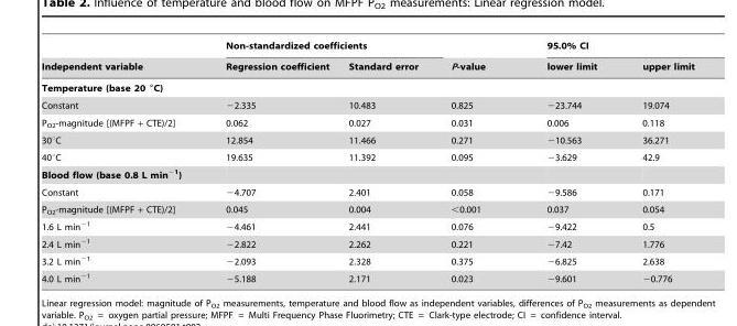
<table><thead><tr><td rowspan="2">Independent variable</td><td colspan="2">Non-standardized coefficients</td><td rowspan="2">P-value</td><td colspan="2">95.0% CI</td></tr><tr><td>Regression coefficient</td><td>Standard error</td><td>lower limit</td><td>upper limit</td></tr></thead><tbody><tr><td colspan="6">Temperature (base 20 °C)</td></tr><tr><td>Constant</td><td>−2.335</td><td>10.483</td><td>0.825</td><td>−23.744</td><td>19.074</td></tr><tr><td>P<sub>O2</sub>-magnitude [(MFPF + CTE)/2]</td><td>0.062</td><td>0.027</td><td>0.031</td><td>0.006</td><td>0.118</td></tr><tr><td>30°C</td><td>12.854</td><td>11.466</td><td>0.271</td><td>−10.563</td><td>36.271</td></tr><tr><td>40°C</td><td>19.635</td><td>11.392</td><td>0.095</td><td>−3.629</td><td>42.9</td></tr><tr><td colspan="6">Blood flow (base 0.8 L min<sup>−1</sup>)</td></tr><tr><td>Constant</td><td>−4.707</td><td>2.401</td><td>0.058</td><td>−9.586</td><td>0.171</td></tr><tr><td>P<sub>O2</sub>-magnitude [(MFPF + CTE)/2]</td><td>0.045</td><td>0.004</td><td>&lt;0.001</td><td>0.037</td><td>0.054</td></tr><tr><td>1.6 L min<sup>−1</sup></td><td>−4.461</td><td>2.441</td><td>0.076</td><td>−9.422</td><td>0.5</td></tr><tr><td>2.4 L min<sup>−1</sup></td><td>−2.822</td><td>2.262</td><td>0.221</td><td>−7.42</td><td>1.776</td></tr><tr><td>3.2 L min<sup>−1</sup></td><td>−2.093</td><td>2.328</td><td>0.375</td><td>−6.825</td><td>2.638</td></tr><tr><td>4.0 L min<sup>−1</sup></td><td>−5.188</td><td>2.171</td><td>0.023</td><td>−9.601</td><td>−0.776</td></tr></tbody></table>